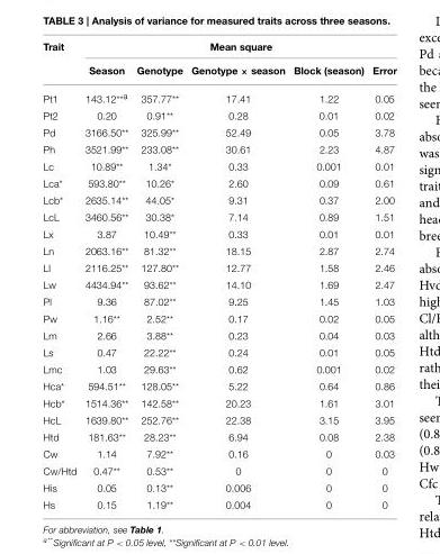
<table><thead><tr><td rowspan="2">Trait</td><td colspan="5">Mean square</td></tr><tr><td>Season</td><td>Genotype</td><td>Genotype × season</td><td>Block (season)</td><td>Error</td></tr></thead><tbody><tr><td>Pt1</td><td>143.12<sup>**a</sup></td><td>357.77**</td><td>17.41</td><td>1.22</td><td>0.05</td></tr><tr><td>Pt2</td><td>0.20</td><td>0.91**</td><td>0.28</td><td>0.01</td><td>0.02</td></tr><tr><td>Pd</td><td>3166.50**</td><td>325.99**</td><td>52.49</td><td>0.05</td><td>3.78</td></tr><tr><td>Ph</td><td>3521.99**</td><td>233.08**</td><td>30.61</td><td>2.23</td><td>4.87</td></tr><tr><td>Lc</td><td>10.89**</td><td>1.34*</td><td>0.33</td><td>0.001</td><td>0.01</td></tr><tr><td>Lca*</td><td>593.80**</td><td>10.26*</td><td>2.60</td><td>0.09</td><td>0.61</td></tr><tr><td>Lcb*</td><td>2635.14**</td><td>44.05*</td><td>9.31</td><td>0.37</td><td>2.00</td></tr><tr><td>LcL</td><td>3460.56**</td><td>30.38*</td><td>7.14</td><td>0.89</td><td>1.51</td></tr><tr><td>Lx</td><td>3.87</td><td>10.49**</td><td>0.33</td><td>0.01</td><td>0.01</td></tr><tr><td>Ln</td><td>2063.16**</td><td>81.32**</td><td>18.15</td><td>2.87</td><td>2.74</td></tr><tr><td>Ll</td><td>2116.25**</td><td>127.80**</td><td>12.77</td><td>1.58</td><td>2.46</td></tr><tr><td>Lw</td><td>4434.94**</td><td>93.62**</td><td>14.10</td><td>1.69</td><td>2.47</td></tr><tr><td>Pl</td><td>9.36</td><td>87.02**</td><td>9.25</td><td>1.45</td><td>1.03</td></tr><tr><td>Pw</td><td>1.16**</td><td>2.52**</td><td>0.17</td><td>0.02</td><td>0.05</td></tr><tr><td>Lm</td><td>2.66</td><td>3.88**</td><td>0.23</td><td>0.04</td><td>0.03</td></tr><tr><td>Ls</td><td>0.47</td><td>22.22**</td><td>0.24</td><td>0.01</td><td>0.05</td></tr><tr><td>Lmc</td><td>1.03</td><td>29.63**</td><td>0.62</td><td>0.001</td><td>0.02</td></tr><tr><td>Hca*</td><td>594.51**</td><td>128.05**</td><td>5.22</td><td>0.64</td><td>0.86</td></tr><tr><td>Hcb*</td><td>1514.36**</td><td>142.58**</td><td>20.23</td><td>1.61</td><td>3.01</td></tr><tr><td>HcL</td><td>1639.80**</td><td>252.76**</td><td>22.38</td><td>3.15</td><td>3.95</td></tr><tr><td>Htd</td><td>181.63**</td><td>28.23**</td><td>6.94</td><td>0.08</td><td>2.38</td></tr><tr><td>Cw</td><td>1.14</td><td>7.92**</td><td>0.16</td><td>0</td><td>0.03</td></tr><tr><td>Cw/Htd</td><td>0.47**</td><td>0.53**</td><td>0</td><td>0</td><td>0</td></tr><tr><td>His</td><td>0.05</td><td>0.13**</td><td>0.006</td><td>0</td><td>0</td></tr><tr><td>Hs</td><td>0.15</td><td>1.19**</td><td>0.004</td><td>0</td><td>0</td></tr></tbody></table>